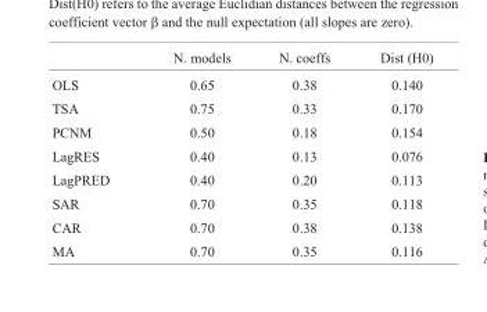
<table><thead><tr><td></td><td>N. models</td><td>N. coeffs</td><td>Dist (H0)</td></tr></thead><tbody><tr><td>OLS</td><td>0.65</td><td>0.38</td><td>0.140</td></tr><tr><td>TSA</td><td>0.75</td><td>0.33</td><td>0.170</td></tr><tr><td>PCNM</td><td>0.50</td><td>0.18</td><td>0.154</td></tr><tr><td>LagRES</td><td>0.40</td><td>0.13</td><td>0.076</td></tr><tr><td>LagPRED</td><td>0.40</td><td>0.20</td><td>0.113</td></tr><tr><td>SAR</td><td>0.70</td><td>0.35</td><td>0.118</td></tr><tr><td>CAR</td><td>0.70</td><td>0.38</td><td>0.138</td></tr><tr><td>MA</td><td>0.70</td><td>0.35</td><td>0.116</td></tr></tbody></table>